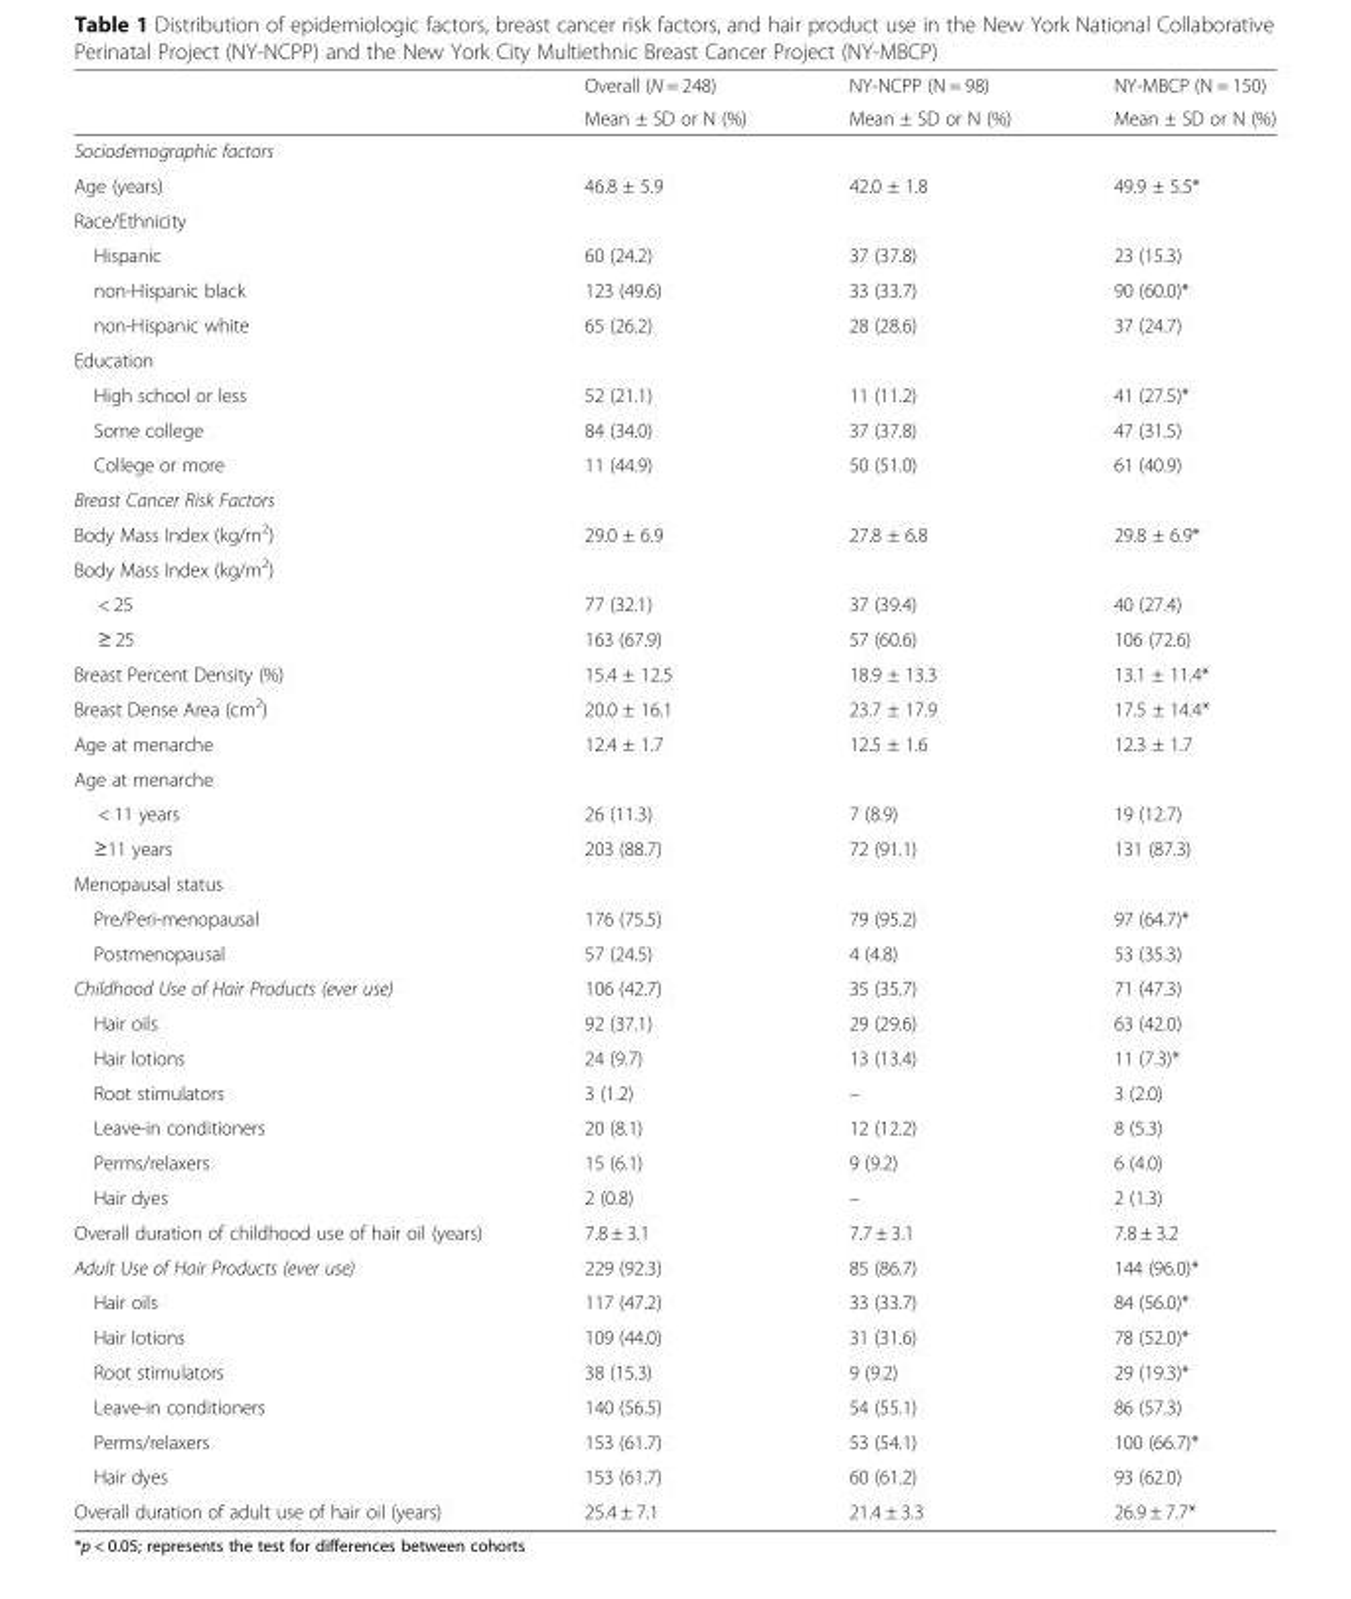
<table><thead><tr><td rowspan="2"></td><td rowspan="2">Overall (N = 248) Mean ± SD or N (%)</td><td rowspan="2">NY-NCPP (N = 98) Mean ± SD or N (%)</td><td rowspan="2">NY-MBCP (N = 150) Mean ± SD or N (%)</td></tr><tr></tr></thead><tbody><tr><td colspan="4">Sociodemographic factors</td></tr><tr><td>Age (years)</td><td>46.8 ± 5.9</td><td>42.0 ± 1.8</td><td>49.9 ± 5.5*</td></tr><tr><td colspan="4">Race/Ethnicity</td></tr><tr><td>Hispanic</td><td>60 (24.2)</td><td>37 (37.8)</td><td>23 (15.3)</td></tr><tr><td>non-Hispanic black</td><td>123 (49.6)</td><td>33 (33.7)</td><td>90 (60.0)*</td></tr><tr><td>non-Hispanic white</td><td>65 (26.2)</td><td>28 (28.6)</td><td>37 (24.7)</td></tr><tr><td colspan="4">Education</td></tr><tr><td>High school or less</td><td>52 (21.1)</td><td>11 (11.2)</td><td>41 (27.5)*</td></tr><tr><td>Some college</td><td>84 (34.0)</td><td>37 (37.8)</td><td>47 (31.5)</td></tr><tr><td>College or more</td><td>11 (44.9)</td><td>50 (51.0)</td><td>61 (40.9)</td></tr><tr><td colspan="4">Breast Cancer Risk Factors</td></tr><tr><td>Body Mass Index (kg/m<sup>2</sup>)</td><td>29.0 ± 6.9</td><td>27.8 ± 6.8</td><td>29.8 ± 6.9*</td></tr><tr><td colspan="4">Body Mass Index (kg/m<sup>2</sup>)</td></tr><tr><td>&lt; 25</td><td>77 (32.1)</td><td>37 (39.4)</td><td>40 (27.4)</td></tr><tr><td>≥ 25</td><td>163 (67.9)</td><td>57 (60.6)</td><td>106 (72.6)</td></tr><tr><td>Breast Percent Density (%)</td><td>15.4 ± 12.5</td><td>18.9 ± 13.3</td><td>13.1 ± 11.4*</td></tr><tr><td>Breast Dense Area (cm<sup>2</sup>)</td><td>20.0 ± 16.1</td><td>23.7 ± 17.9</td><td>17.5 ± 14.4*</td></tr><tr><td>Age at menarche</td><td>12.4 ± 1.7</td><td>12.5 ± 1.6</td><td>12.3 ± 1.7</td></tr><tr><td colspan="4">Age at menarche</td></tr><tr><td>&lt; 11 years</td><td>26 (11.3)</td><td>7 (8.9)</td><td>19 (12.7)</td></tr><tr><td>≥11 years</td><td>203 (88.7)</td><td>72 (91.1)</td><td>131 (87.3)</td></tr><tr><td colspan="4">Menopausal status</td></tr><tr><td>Pre/Peri-menopausal</td><td>176 (75.5)</td><td>79 (95.2)</td><td>97 (64.7)*</td></tr><tr><td>Postmenopausal</td><td>57 (24.5)</td><td>4 (4.8)</td><td>53 (35.3)</td></tr><tr><td>Childhood Use of Hair Products (ever use)</td><td>106 (42.7)</td><td>35 (35.7)</td><td>71 (47.3)</td></tr><tr><td>Hair oils</td><td>92 (37.1)</td><td>29 (29.6)</td><td>63 (42.0)</td></tr><tr><td>Hair lotions</td><td>24 (9.7)</td><td>13 (13.4)</td><td>11 (7.3)*</td></tr><tr><td>Root stimulators</td><td>3 (1.2)</td><td>–</td><td>3 (2.0)</td></tr><tr><td>Leave-in conditioners</td><td>20 (8.1)</td><td>12 (12.2)</td><td>8 (5.3)</td></tr><tr><td>Perms/relaxers</td><td>15 (6.1)</td><td>9 (9.2)</td><td>6 (4.0)</td></tr><tr><td>Hair dyes</td><td>2 (0.8)</td><td>–</td><td>2 (1.3)</td></tr><tr><td>Overall duration of childhood use of hair oil (years)</td><td>7.8 ± 3.1</td><td>7.7 ± 3.1</td><td>7.8 ± 3.2</td></tr><tr><td>Adult Use of Hair Products (ever use)</td><td>229 (92.3)</td><td>85 (86.7)</td><td>144 (96.0)*</td></tr><tr><td>Hair oils</td><td>117 (47.2)</td><td>33 (33.7)</td><td>84 (56.0)*</td></tr><tr><td>Hair lotions</td><td>109 (44.0)</td><td>31 (31.6)</td><td>78 (52.0)*</td></tr><tr><td>Root stimulators</td><td>38 (15.3)</td><td>9 (9.2)</td><td>29 (19.3)*</td></tr><tr><td>Leave-in conditioners</td><td>140 (56.5)</td><td>54 (55.1)</td><td>86 (57.3)</td></tr><tr><td>Perms/relaxers</td><td>153 (61.7)</td><td>53 (54.1)</td><td>100 (66.7)*</td></tr><tr><td>Hair dyes</td><td>153 (61.7)</td><td>60 (61.2)</td><td>93 (62.0)</td></tr><tr><td>Overall duration of adult use of hair oil (years)</td><td>25.4 ± 7.1</td><td>21.4 ± 3.3</td><td>26.9 ± 7.7*</td></tr></tbody></table>